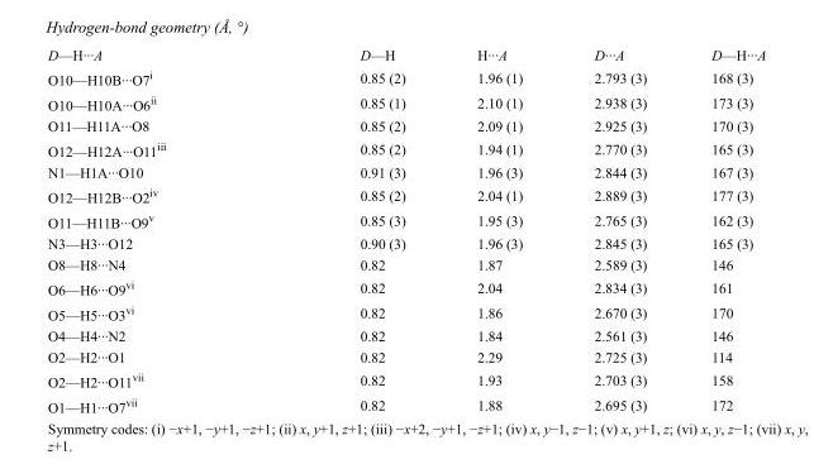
<table><tbody><tr><td>D—H···A</td><td>D—H</td><td>H···A</td><td>D···A</td><td>D—H···A</td></tr><tr><td>O10—H10B···O7<sup>i</sup></td><td>0.85 (2)</td><td>1.96 (1)</td><td>2.793 (3)</td><td>168 (3)</td></tr><tr><td>O10—H10A···O6<sup>ii</sup></td><td>0.85 (1)</td><td>2.10 (1)</td><td>2.938 (3)</td><td>173 (3)</td></tr><tr><td>O11—H11A···O8</td><td>0.85 (2)</td><td>2.09 (1)</td><td>2.925 (3)</td><td>170 (3)</td></tr><tr><td>O12—H12A···O11<sup>iii</sup></td><td>0.85 (2)</td><td>1.94 (1)</td><td>2.770 (3)</td><td>165 (3)</td></tr><tr><td>N1—H1A···O10</td><td>0.91 (3)</td><td>1.96 (3)</td><td>2.844 (3)</td><td>167 (3)</td></tr><tr><td>O12—H12B···O2<sup>iv</sup></td><td>0.85 (2)</td><td>2.04 (1)</td><td>2.889 (3)</td><td>177 (3)</td></tr><tr><td>O11—H11B···O9<sup>v</sup></td><td>0.85 (3)</td><td>1.95 (3)</td><td>2.765 (3)</td><td>162 (3)</td></tr><tr><td>N3—H3···O12</td><td>0.90 (3)</td><td>1.96 (3)</td><td>2.845 (3)</td><td>165 (3)</td></tr><tr><td>O8—H8···N4</td><td>0.82</td><td>1.87</td><td>2.589 (3)</td><td>146</td></tr><tr><td>O6—H6···O9<sup>vi</sup></td><td>0.82</td><td>2.04</td><td>2.834 (3)</td><td>161</td></tr><tr><td>O5—H5···O3<sup>vi</sup></td><td>0.82</td><td>1.86</td><td>2.670 (3)</td><td>170</td></tr><tr><td>O4—H4···N2</td><td>0.82</td><td>1.84</td><td>2.561 (3)</td><td>146</td></tr><tr><td>O2—H2···O1</td><td>0.82</td><td>2.29</td><td>2.725 (3)</td><td>114</td></tr><tr><td>O2—H2···O11<sup>vii</sup></td><td>0.82</td><td>1.93</td><td>2.703 (3)</td><td>158</td></tr><tr><td>O1—H1···O7<sup>vii</sup></td><td>0.82</td><td>1.88</td><td>2.695 (3)</td><td>172</td></tr></tbody></table>